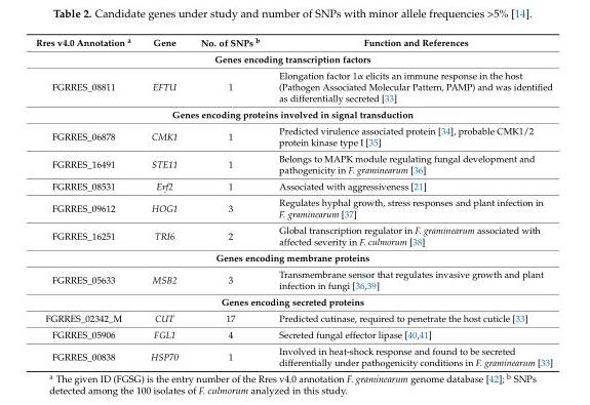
<table><thead><tr><td>Rres v4.0 Annotation <sup>a</sup></td><td>Gene</td><td>No. of SNPs <sup>b</sup></td><td>Function and References</td></tr></thead><tbody><tr><td colspan="4">Genes encoding transcription factors</td></tr><tr><td>FGRRES_08811</td><td>EFTU</td><td>1</td><td>Elongation factor 1α elicits an immune response in the host (Pathogen Associated Molecular Pattern, PAMP) and was identified as differentially secreted [33]</td></tr><tr><td colspan="4">Genes encoding proteins involved in signal transduction</td></tr><tr><td>FGRRES_06878</td><td>CMK1</td><td>1</td><td>Predicted virulence associated protein [34], probable CMK1/2 protein kinase type I [35]</td></tr><tr><td>FGRRES_16491</td><td>STE11</td><td>1</td><td>Belongs to MAPK module regulating fungal development and pathogenicity in F. graminearum [36]</td></tr><tr><td>FGRRES_08531</td><td>Erf2</td><td>1</td><td>Associated with aggressiveness [21]</td></tr><tr><td>FGRRES_09612</td><td>HOG1</td><td>3</td><td>Regulates hyphal growth, stress responses and plant infection in F. graminearum [37]</td></tr><tr><td>FGRRES_16251</td><td>TRI6</td><td>2</td><td>Global transcription regulator in F. graminearum associated with affected severity in F. culmorum [38]</td></tr><tr><td colspan="4">Genes encoding membrane proteins</td></tr><tr><td>FGRRES_05633</td><td>MSB2</td><td>3</td><td>Transmembrane sensor that regulates invasive growth and plant infection in fungi [36,39]</td></tr><tr><td colspan="4">Genes encoding secreted proteins</td></tr><tr><td>FGRRES_02342_M</td><td>CUT</td><td>17</td><td>Predicted cutinase, required to penetrate the host cuticle [33]</td></tr><tr><td>FGRRES_05906</td><td>FGL1</td><td>4</td><td>Secreted fungal effector lipase [40,41]</td></tr><tr><td>FGRRES_00838</td><td>HSP70</td><td>1</td><td>Involved in heat-shock response and found to be secreted differentially under pathogenicity conditions in F. graminearum [33]</td></tr></tbody></table>